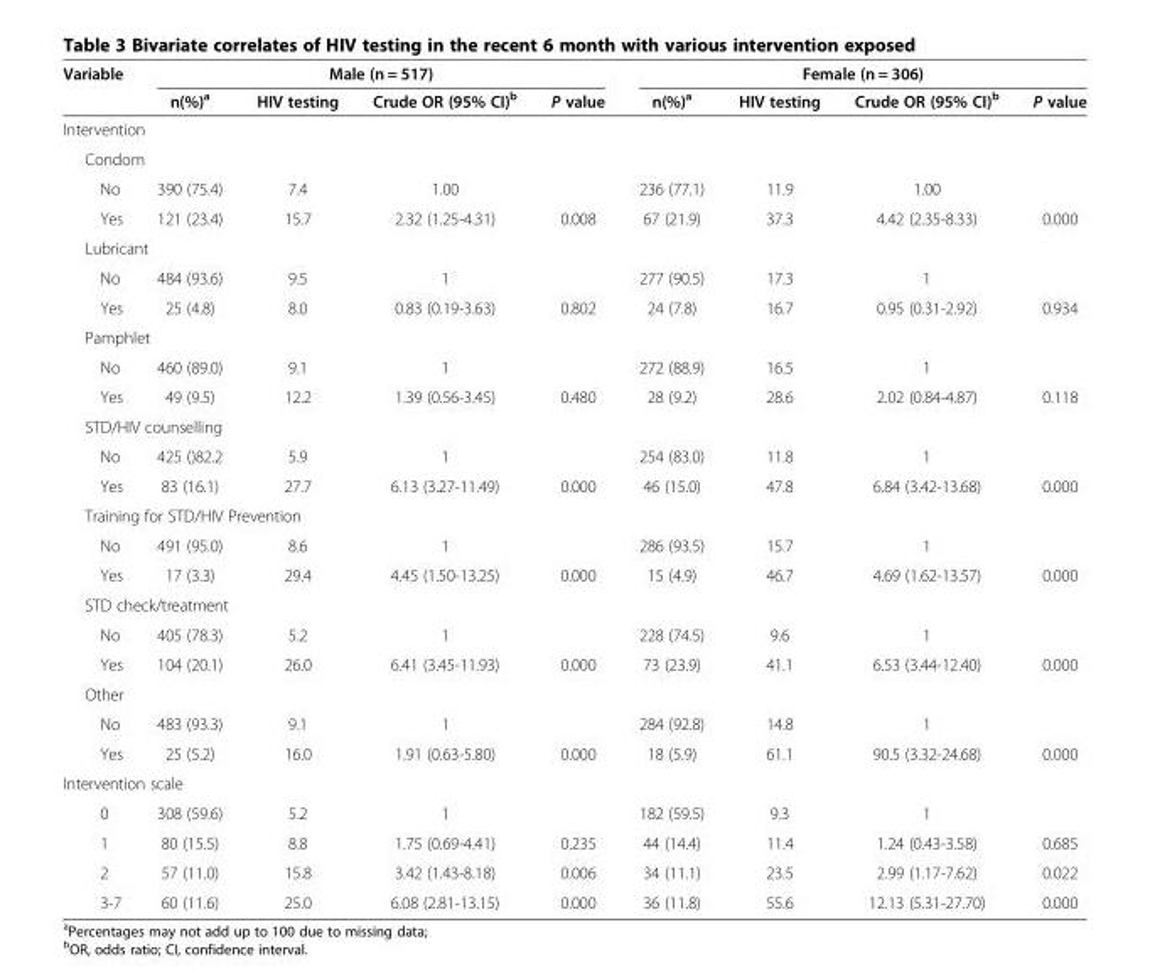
<table><thead><tr><td rowspan="2">Variable</td><td colspan="4">Male (n = 517)</td><td colspan="4">Female (n = 306)</td></tr><tr><td>n(%)<sup>a</sup></td><td>HIV testing</td><td>Crude OR (95% CI)<sup>b</sup></td><td>P value</td><td>n(%)<sup>a</sup></td><td>HIV testing</td><td>Crude OR (95% CI)<sup>b</sup></td><td>P value</td></tr></thead><tbody><tr><td colspan="9">Intervention</td></tr><tr><td colspan="9">Condom</td></tr><tr><td>No</td><td>390 (75.4)</td><td>7.4</td><td>1.00</td><td></td><td>236 (77.1)</td><td>11.9</td><td>1.00</td><td></td></tr><tr><td>Yes</td><td>121 (23.4)</td><td>15.7</td><td>2.32 (1.25-4.31)</td><td>0.008</td><td>67 (21.9)</td><td>37.3</td><td>4.42 (2.35-8.33)</td><td>0.000</td></tr><tr><td colspan="9">Lubricant</td></tr><tr><td>No</td><td>484 (93.6)</td><td>9.5</td><td>1</td><td></td><td>277 (90.5)</td><td>17.3</td><td>1</td><td></td></tr><tr><td>Yes</td><td>25 (4.8)</td><td>8.0</td><td>0.83 (0.19-3.63)</td><td>0.802</td><td>24 (7.8)</td><td>16.7</td><td>0.95 (0.31-2.92)</td><td>0.934</td></tr><tr><td colspan="9">Pamphlet</td></tr><tr><td>No</td><td>460 (89.0)</td><td>9.1</td><td>1</td><td></td><td>272 (88.9)</td><td>16.5</td><td>1</td><td></td></tr><tr><td>Yes</td><td>49 (9.5)</td><td>12.2</td><td>1.39 (0.56-3.45)</td><td>0.480</td><td>28 (9.2)</td><td>28.6</td><td>2.02 (0.84-4.87)</td><td>0.118</td></tr><tr><td colspan="9">STD/HIV counselling</td></tr><tr><td>No</td><td>425 ()82.2</td><td>5.9</td><td>1</td><td></td><td>254 (83.0)</td><td>11.8</td><td>1</td><td></td></tr><tr><td>Yes</td><td>83 (16.1)</td><td>27.7</td><td>6.13 (3.27-11.49)</td><td>0.000</td><td>46 (15.0)</td><td>47.8</td><td>6.84 (3.42-13.68)</td><td>0.000</td></tr><tr><td colspan="9">Training for STD/HIV Prevention</td></tr><tr><td>No</td><td>491 (95.0)</td><td>8.6</td><td>1</td><td></td><td>286 (93.5)</td><td>15.7</td><td>1</td><td></td></tr><tr><td>Yes</td><td>17 (3.3)</td><td>29.4</td><td>4.45 (1.50-13.25)</td><td>0.000</td><td>15 (4.9)</td><td>46.7</td><td>4.69 (1.62-13.57)</td><td>0.000</td></tr><tr><td colspan="9">STD check/treatment</td></tr><tr><td>No</td><td>405 (78.3)</td><td>5.2</td><td>1</td><td></td><td>228 (74.5)</td><td>9.6</td><td>1</td><td></td></tr><tr><td>Yes</td><td>104 (20.1)</td><td>26.0</td><td>6.41 (3.45-11.93)</td><td>0.000</td><td>73 (23.9)</td><td>41.1</td><td>6.53 (3.44-12.40)</td><td>0.000</td></tr><tr><td colspan="9">Other</td></tr><tr><td>No</td><td>483 (93.3)</td><td>9.1</td><td>1</td><td></td><td>284 (92.8)</td><td>14.8</td><td>1</td><td></td></tr><tr><td>Yes</td><td>25 (5.2)</td><td>16.0</td><td>1.91 (0.63-5.80)</td><td>0.000</td><td>18 (5.9)</td><td>61.1</td><td>90.5 (3.32-24.68)</td><td>0.000</td></tr><tr><td colspan="9">Intervention scale</td></tr><tr><td>0</td><td>308 (59.6)</td><td>5.2</td><td>1</td><td></td><td>182 (59.5)</td><td>9.3</td><td>1</td><td></td></tr><tr><td>1</td><td>80 (15.5)</td><td>8.8</td><td>1.75 (0.69-4.41)</td><td>0.235</td><td>44 (14.4)</td><td>11.4</td><td>1.24 (0.43-3.58)</td><td>0.685</td></tr><tr><td>2</td><td>57 (11.0)</td><td>15.8</td><td>3.42 (1.43-8.18)</td><td>0.006</td><td>34 (11.1)</td><td>23.5</td><td>2.99 (1.17-7.62)</td><td>0.022</td></tr><tr><td>3-7</td><td>60 (11.6)</td><td>25.0</td><td>6.08 (2.81-13.15)</td><td>0.000</td><td>36 (11.8)</td><td>55.6</td><td>12.13 (5.31-27.70)</td><td>0.000</td></tr></tbody></table>